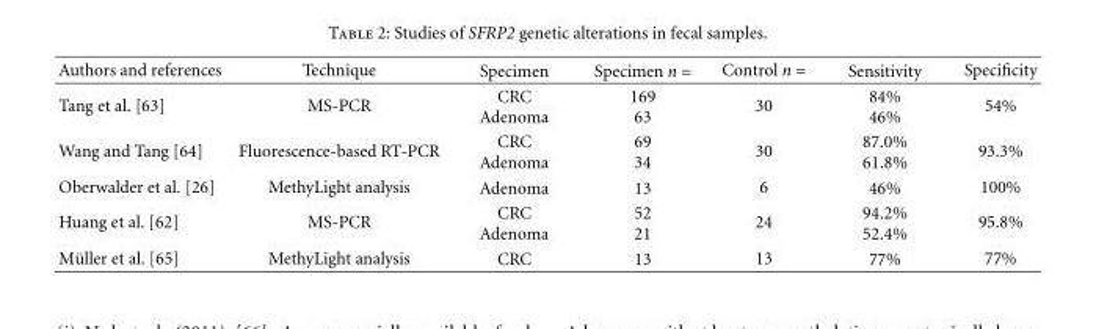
<table><thead><tr><td>Authors and references</td><td>Technique</td><td>Specimen</td><td>Specimen n =</td><td>Control n =</td><td>Sensitivity</td><td>Specificity</td></tr></thead><tbody><tr><td>Tang et al. [63]</td><td>MS-PCR</td><td>CRC Adenoma</td><td>169 63</td><td>30</td><td>84% 46%</td><td>54%</td></tr><tr><td>Wang and Tang [64]</td><td>Fluorescence-based RT-PCR</td><td>CRC Adenoma</td><td>69 34</td><td>30</td><td>87.0% 61.8%</td><td>93.3%</td></tr><tr><td>Oberwalder et al. [26]</td><td>MethyLight analysis</td><td>Adenoma</td><td>13</td><td>6</td><td>46%</td><td>100%</td></tr><tr><td>Huang et al. [62]</td><td>MS-PCR</td><td>CRC Adenoma</td><td>52 21</td><td>24</td><td>94.2% 52.4%</td><td>95.8%</td></tr><tr><td>M¨uller et al. [65]</td><td>MethyLight analysis</td><td>CRC</td><td>13</td><td>13</td><td>77%</td><td>77%</td></tr></tbody></table>